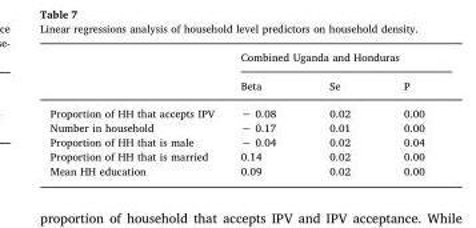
<table><thead><tr><td rowspan="2"></td><td colspan="3">Combined Uganda and Honduras</td></tr><tr><td>Beta</td><td>Se</td><td>P</td></tr></thead><tbody><tr><td>Proportion of HH that accepts IPV</td><td>− 0.08</td><td>0.02</td><td>0.00</td></tr><tr><td>Number in household</td><td>− 0.17</td><td>0.01</td><td>0.00</td></tr><tr><td>Proportion of HH that is male</td><td>− 0.04</td><td>0.02</td><td>0.04</td></tr><tr><td>Proportion of HH that is married</td><td>0.14</td><td>0.02</td><td>0.00</td></tr><tr><td>Mean HH education</td><td>0.09</td><td>0.02</td><td>0.00</td></tr></tbody></table>